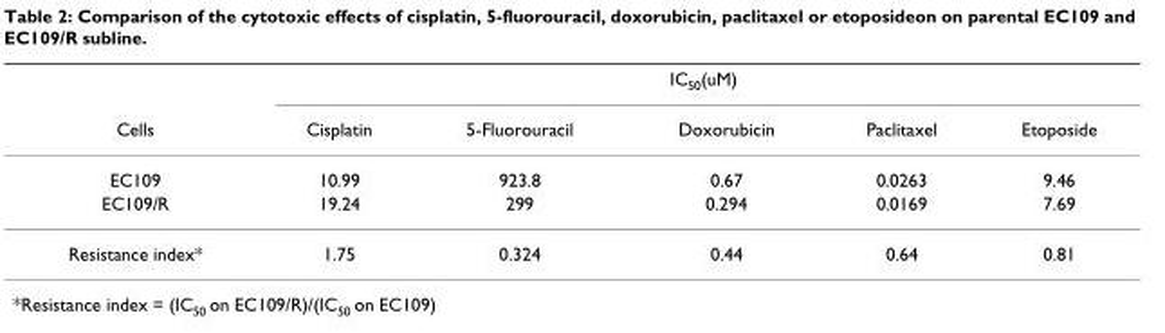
<table><thead><tr><td rowspan="2">Cells</td><td colspan="5">IC<sub>50</sub>(uM)</td></tr><tr><td>Cisplatin</td><td>5-Fluorouracil</td><td>Doxorubicin</td><td>Paclitaxel</td><td>Etoposide</td></tr></thead><tbody><tr><td>EC109</td><td>10.99</td><td>923.8</td><td>0.67</td><td>0.0263</td><td>9.46</td></tr><tr><td>EC109/R</td><td>19.24</td><td>299</td><td>0.294</td><td>0.0169</td><td>7.69</td></tr><tr><td>Resistance index*</td><td>1.75</td><td>0.324</td><td>0.44</td><td>0.64</td><td>0.81</td></tr></tbody></table>